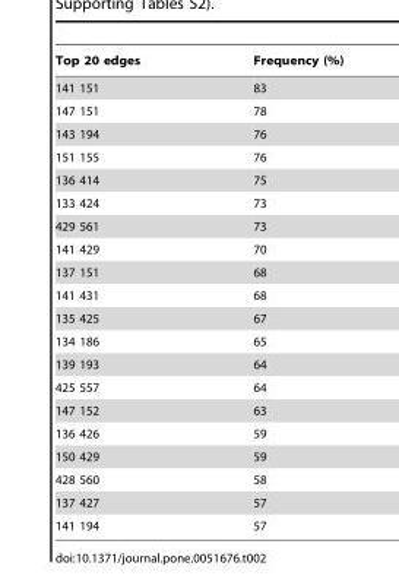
<table><thead><tr><td>Top 20 edges</td><td>Frequency (%)</td></tr></thead><tbody><tr><td>141 151</td><td>83</td></tr><tr><td>147 151</td><td>78</td></tr><tr><td>143 194</td><td>76</td></tr><tr><td>151 155</td><td>76</td></tr><tr><td>136 414</td><td>75</td></tr><tr><td>133 424</td><td>73</td></tr><tr><td>429 561</td><td>73</td></tr><tr><td>141 429</td><td>70</td></tr><tr><td>137 151</td><td>68</td></tr><tr><td>141 431</td><td>68</td></tr><tr><td>135 425</td><td>67</td></tr><tr><td>134 186</td><td>65</td></tr><tr><td>139 193</td><td>64</td></tr><tr><td>425 557</td><td>64</td></tr><tr><td>147 152</td><td>63</td></tr><tr><td>136 426</td><td>59</td></tr><tr><td>150 429</td><td>59</td></tr><tr><td>428 560</td><td>58</td></tr><tr><td>137 427</td><td>57</td></tr><tr><td>141 194</td><td>57</td></tr></tbody></table>